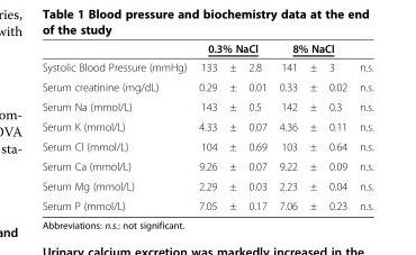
<table><thead><tr><td rowspan="2">Systolic Blood Pressure (mmHg)</td><td colspan="3">0.3% NaCl</td><td colspan="3">8% NaCl</td><td rowspan="2">n.s.</td></tr><tr><td>133</td><td>±</td><td>2.8</td><td>141</td><td>±</td><td>3</td></tr></thead><tbody><tr><td>Serum creatinine (mg/dL)</td><td>0.29</td><td>±</td><td>0.01</td><td>0.33</td><td>±</td><td>0.02</td><td>n.s.</td></tr><tr><td>Serum Na (mmol/L)</td><td>143</td><td>±</td><td>0.5</td><td>142</td><td>±</td><td>0.3</td><td>n.s.</td></tr><tr><td>Serum K (mmol/L)</td><td>4.33</td><td>±</td><td>0.07</td><td>4.36</td><td>±</td><td>0.11</td><td>n.s.</td></tr><tr><td>Serum Cl (mmol/L)</td><td>104</td><td>±</td><td>0.69</td><td>103</td><td>±</td><td>0.64</td><td>n.s.</td></tr><tr><td>Serum Ca (mmol/L)</td><td>9.26</td><td>±</td><td>0.07</td><td>9.22</td><td>±</td><td>0.09</td><td>n.s.</td></tr><tr><td>Serum Mg (mmol/L)</td><td>2.29</td><td>±</td><td>0.03</td><td>2.23</td><td>±</td><td>0.04</td><td>n.s.</td></tr><tr><td>Serum P (mmol/L)</td><td>7.05</td><td>±</td><td>0.17</td><td>7.06</td><td>±</td><td>0.23</td><td>n.s.</td></tr></tbody></table>